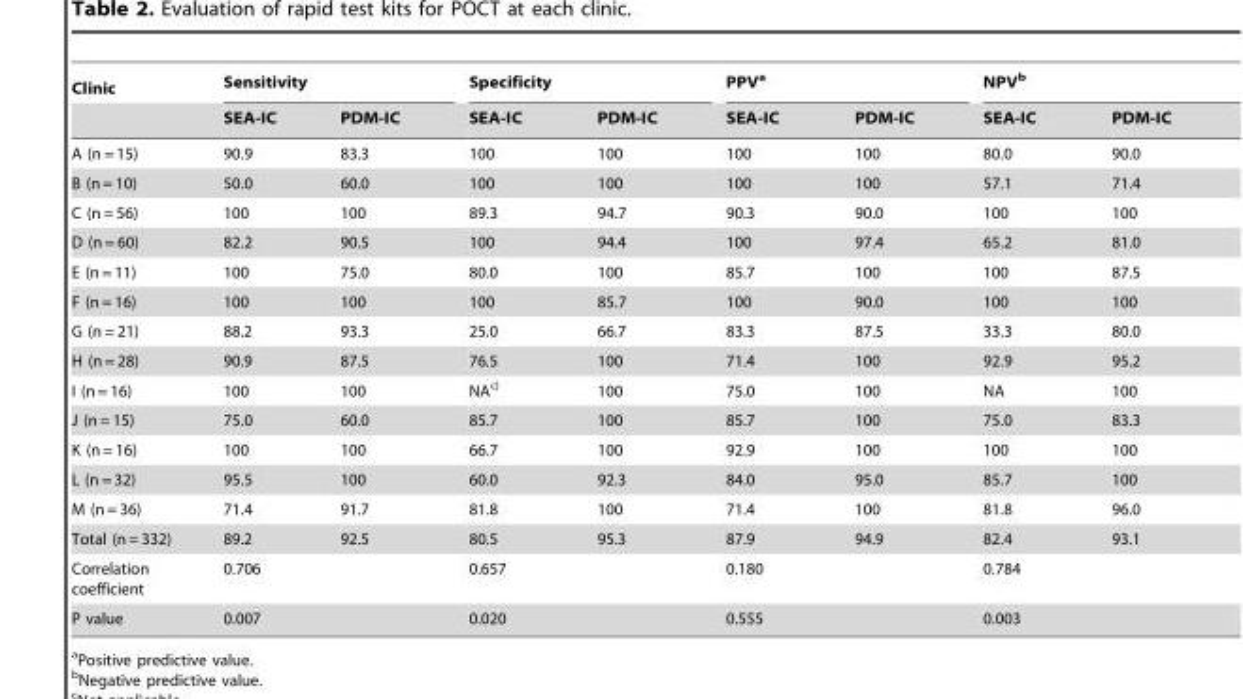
<table><thead><tr><td rowspan="2">Clinic</td><td colspan="2">Sensitivity</td><td colspan="2">Specificity</td><td colspan="2">PPV<sup>a</sup></td><td colspan="2">NPV<sup>b</sup></td></tr><tr><td>SEA-IC</td><td>PDM-IC</td><td>SEA-IC</td><td>PDM-IC</td><td>SEA-IC</td><td>PDM-IC</td><td>SEA-IC</td><td>PDM-IC</td></tr></thead><tbody><tr><td>A (n = 15)</td><td>90.9</td><td>83.3</td><td>100</td><td>100</td><td>100</td><td>100</td><td>80.0</td><td>90.0</td></tr><tr><td>B (n = 10)</td><td>50.0</td><td>60.0</td><td>100</td><td>100</td><td>100</td><td>100</td><td>57.1</td><td>71.4</td></tr><tr><td>C (n = 56)</td><td>100</td><td>100</td><td>89.3</td><td>94.7</td><td>90.3</td><td>90.0</td><td>100</td><td>100</td></tr><tr><td>D (n = 60)</td><td>82.2</td><td>90.5</td><td>100</td><td>94.4</td><td>100</td><td>97.4</td><td>65.2</td><td>81.0</td></tr><tr><td>E (n = 11)</td><td>100</td><td>75.0</td><td>80.0</td><td>100</td><td>85.7</td><td>100</td><td>100</td><td>87.5</td></tr><tr><td>F (n = 16)</td><td>100</td><td>100</td><td>100</td><td>85.7</td><td>100</td><td>90.0</td><td>100</td><td>100</td></tr><tr><td>G (n = 21)</td><td>88.2</td><td>93.3</td><td>25.0</td><td>66.7</td><td>83.3</td><td>87.5</td><td>33.3</td><td>80.0</td></tr><tr><td>H (n = 28)</td><td>90.9</td><td>87.5</td><td>76.5</td><td>100</td><td>71.4</td><td>100</td><td>92.9</td><td>95.2</td></tr><tr><td>I (n = 16)</td><td>100</td><td>100</td><td>NA<sup>c)</sup></td><td>100</td><td>75.0</td><td>100</td><td>NA</td><td>100</td></tr><tr><td>J (n = 15)</td><td>75.0</td><td>60.0</td><td>85.7</td><td>100</td><td>85.7</td><td>100</td><td>75.0</td><td>83.3</td></tr><tr><td>K (n = 16)</td><td>100</td><td>100</td><td>66.7</td><td>100</td><td>92.9</td><td>100</td><td>100</td><td>100</td></tr><tr><td>L (n = 32)</td><td>95.5</td><td>100</td><td>60.0</td><td>92.3</td><td>84.0</td><td>95.0</td><td>85.7</td><td>100</td></tr><tr><td>M (n = 36)</td><td>71.4</td><td>91.7</td><td>81.8</td><td>100</td><td>71.4</td><td>100</td><td>81.8</td><td>96.0</td></tr><tr><td>Total (n = 332)</td><td>89.2</td><td>92.5</td><td>80.5</td><td>95.3</td><td>87.9</td><td>94.9</td><td>82.4</td><td>93.1</td></tr><tr><td>Correlation coefficient</td><td colspan="2">0.706</td><td colspan="2">0.657</td><td colspan="2">0.180</td><td colspan="2">0.784</td></tr><tr><td>P value</td><td colspan="2">0.007</td><td colspan="2">0.020</td><td colspan="2">0.555</td><td colspan="2">0.003</td></tr></tbody></table>